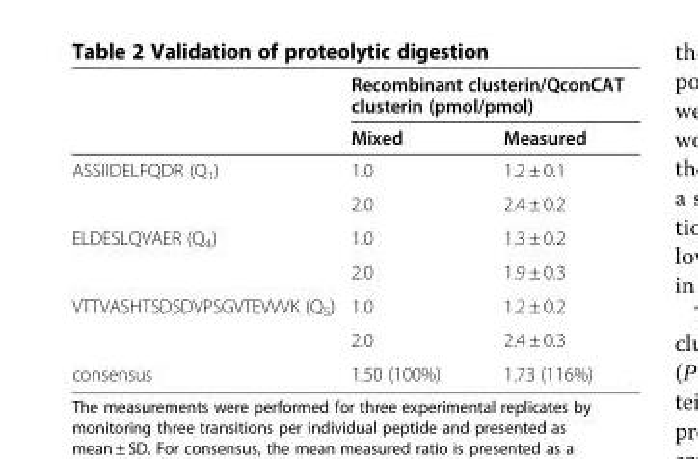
<table><thead><tr><td rowspan="2"></td><td colspan="2">Recombinant clusterin/QconCAT clusterin (pmol/pmol)</td></tr><tr><td>Mixed</td><td>Measured</td></tr></thead><tbody><tr><td rowspan="2">ASSIIDELFQDR (Q<sub>1</sub>)</td><td>1.0</td><td>1.2 ± 0.1</td></tr><tr><td>2.0</td><td>2.4 ± 0.2</td></tr><tr><td rowspan="2">ELDESLQVAER (Q<sub>4</sub>)</td><td>1.0</td><td>1.3 ± 0.2</td></tr><tr><td>2.0</td><td>1.9 ± 0.3</td></tr><tr><td rowspan="2">VTTVASHTSDSDVPSGVTEVVVK (Q<sub>5</sub>)</td><td>1.0</td><td>1.2 ± 0.2</td></tr><tr><td>2.0</td><td>2.4 ± 0.3</td></tr><tr><td>consensus</td><td>1.50 (100%)</td><td>1.73 (116%)</td></tr></tbody></table>